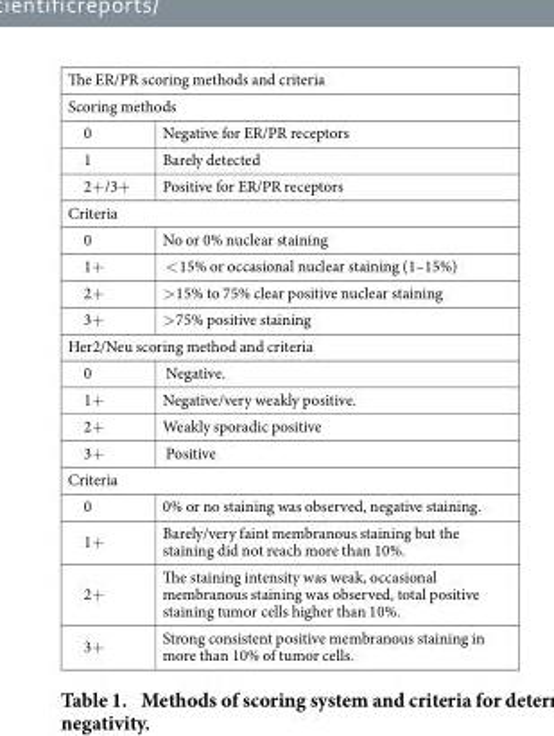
<table><tbody><tr><td colspan="2">The ER/PR scoring methods and criteria</td></tr><tr><td colspan="2">Scoring methods</td></tr><tr><td>0</td><td>Negative for ER/PR receptors</td></tr><tr><td>1</td><td>Barely detected</td></tr><tr><td>2+ /3+</td><td>Positive for ER/PR receptors</td></tr><tr><td colspan="2">Criteria</td></tr><tr><td>0</td><td>No or 0% nuclear staining</td></tr><tr><td>1+</td><td>&lt; 15% or occasional nuclear staining (1–15%)</td></tr><tr><td>2+</td><td>&gt; 15% to 75% clear positive nuclear staining</td></tr><tr><td>3+</td><td>&gt; 75% positive staining</td></tr><tr><td colspan="2">Her2/Neu scoring method and criteria</td></tr><tr><td>0</td><td>Negative.</td></tr><tr><td>1+</td><td>Negative/very weakly positive.</td></tr><tr><td>2+</td><td>Weakly sporadic positive</td></tr><tr><td>3+</td><td>Positive</td></tr><tr><td colspan="2">Criteria</td></tr><tr><td>0</td><td>0% or no staining was observed, negative staining.</td></tr><tr><td>1+</td><td>Barely/very faint membranous staining but the staining did not reach more than 10%.</td></tr><tr><td>2+</td><td>The staining intensity was weak, occasional membranous staining was observed, total positive staining tumor cells higher than 10%.</td></tr><tr><td>3+</td><td>Strong consistent positive membranous staining in more than 10% of tumor cells.</td></tr></tbody></table>